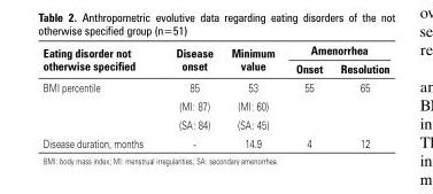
<table><thead><tr><td rowspan="2">Eating disorder not otherwise specified</td><td rowspan="2">Disease onset</td><td rowspan="2">Minimum value</td><td colspan="2">Amenorrhea</td></tr><tr><td>Onset</td><td>Resolution</td></tr></thead><tbody><tr><td rowspan="3">BMI percentile</td><td>85</td><td>53</td><td>55</td><td>65</td></tr><tr><td>(MI: 87)</td><td>(MI: 60)</td><td></td><td></td></tr><tr><td>(SA: 84)</td><td>(SA: 45)</td><td></td><td></td></tr><tr><td>Disease duration, months</td><td>-</td><td>14.9</td><td>4</td><td>12</td></tr></tbody></table>